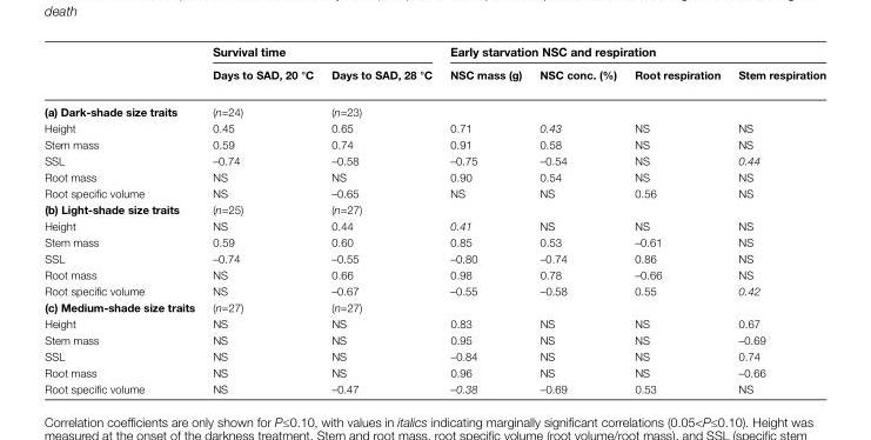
<table><thead><tr><td rowspan="2"></td><td colspan="2">Survival time</td><td colspan="4">Early starvation NSC and respiration</td></tr><tr><td>Days to SAD, 20 °C</td><td>Days to SAD, 28 °C</td><td>NSC mass (g)</td><td>NSC conc. (%)</td><td>Root respiration</td><td>Stem respiration</td></tr></thead><tbody><tr><td>(a) Dark-shade size traits</td><td>(n=24)</td><td>(n=23)</td><td></td><td></td><td></td><td></td></tr><tr><td>Height</td><td>0.45</td><td>0.65</td><td>0.71</td><td>0.43</td><td>NS</td><td>NS</td></tr><tr><td>Stem mass</td><td>0.59</td><td>0.74</td><td>0.91</td><td>0.58</td><td>NS</td><td>NS</td></tr><tr><td>SSL</td><td>–0.74</td><td>–0.58</td><td>–0.75</td><td>–0.54</td><td>NS</td><td>0.44</td></tr><tr><td>Root mass</td><td>NS</td><td>NS</td><td>0.90</td><td>0.54</td><td>NS</td><td>NS</td></tr><tr><td>Root specific volume</td><td>NS</td><td>–0.65</td><td>NS</td><td>NS</td><td>0.56</td><td>NS</td></tr><tr><td>(b) Light-shade size traits</td><td>(n=25)</td><td>(n=27)</td><td></td><td></td><td></td><td></td></tr><tr><td>Height</td><td>NS</td><td>0.44</td><td>0.41</td><td>NS</td><td>NS</td><td>NS</td></tr><tr><td>Stem mass</td><td>0.59</td><td>0.60</td><td>0.85</td><td>0.53</td><td>–0.61</td><td>NS</td></tr><tr><td>SSL</td><td>–0.74</td><td>–0.55</td><td>–0.80</td><td>–0.74</td><td>0.86</td><td>NS</td></tr><tr><td>Root mass</td><td>NS</td><td>0.66</td><td>0.98</td><td>0.78</td><td>–0.66</td><td>NS</td></tr><tr><td>Root specific volume</td><td>NS</td><td>–0.67</td><td>–0.55</td><td>–0.58</td><td>0.55</td><td>0.42</td></tr><tr><td>(c) Medium-shade size traits</td><td>(n=27)</td><td>(n=27)</td><td></td><td></td><td></td><td></td></tr><tr><td>Height</td><td>NS</td><td>NS</td><td>0.83</td><td>NS</td><td>NS</td><td>0.67</td></tr><tr><td>Stem mass</td><td>NS</td><td>NS</td><td>0.95</td><td>NS</td><td>NS</td><td>–0.69</td></tr><tr><td>SSL</td><td>NS</td><td>NS</td><td>–0.84</td><td>NS</td><td>NS</td><td>0.74</td></tr><tr><td>Root mass</td><td>NS</td><td>NS</td><td>0.96</td><td>NS</td><td>NS</td><td>–0.66</td></tr><tr><td>Root specific volume</td><td>NS</td><td>–0.47</td><td>–0.38</td><td>–0.69</td><td>0.53</td><td>NS</td></tr></tbody></table>